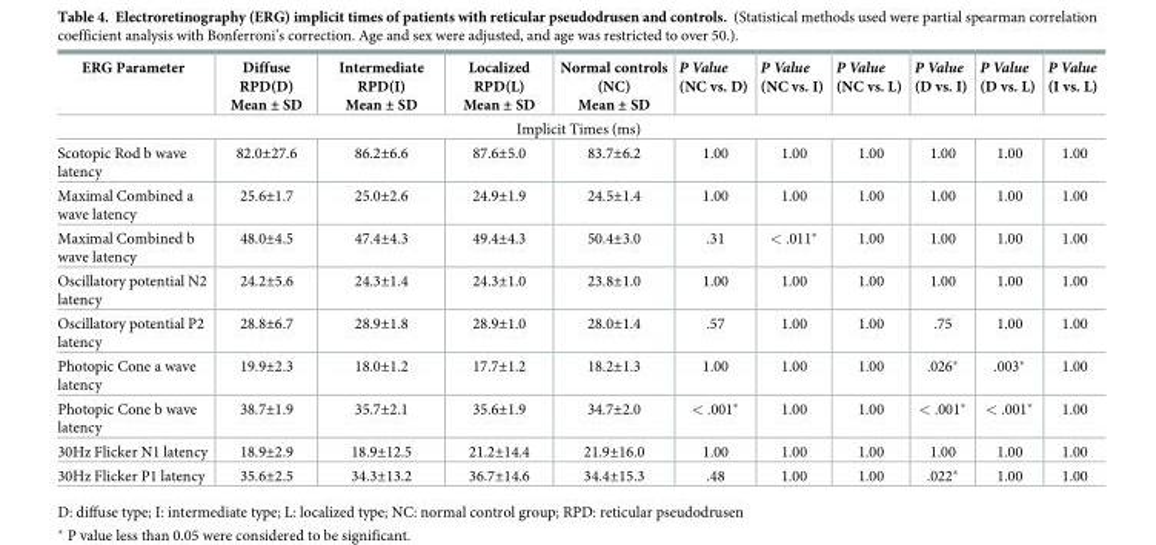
<table><thead><tr><td>ERG Parameter</td><td>Diffuse RPD(D) Mean ± SD</td><td>Intermediate RPD(I) Mean ± SD</td><td>Localized RPD(L) Mean ± SD</td><td>Normal controls (NC) Mean ± SD</td><td>P Value (NC vs. D)</td><td>P Value (NC vs. I)</td><td>P Value (NC vs. L)</td><td>P Value (D vs. I)</td><td>P Value (D vs. L)</td><td>P Value (I vs. L)</td></tr></thead><tbody><tr><td colspan="11">Implicit Times (ms)</td></tr><tr><td>Scotopic Rod b wave latency</td><td>82.0±27.6</td><td>86.2±6.6</td><td>87.6±5.0</td><td>83.7±6.2</td><td>1.00</td><td>1.00</td><td>1.00</td><td>1.00</td><td>1.00</td><td>1.00</td></tr><tr><td>Maximal Combined a wave latency</td><td>25.6±1.7</td><td>25.0±2.6</td><td>24.9±1.9</td><td>24.5±1.4</td><td>1.00</td><td>1.00</td><td>1.00</td><td>1.00</td><td>1.00</td><td>1.00</td></tr><tr><td>Maximal Combined b wave latency</td><td>48.0±4.5</td><td>47.4±4.3</td><td>49.4±4.3</td><td>50.4±3.0</td><td>.31</td><td>&lt; .011*</td><td>1.00</td><td>1.00</td><td>1.00</td><td>1.00</td></tr><tr><td>Oscillatory potential N2 latency</td><td>24.2±5.6</td><td>24.3±1.4</td><td>24.3±1.0</td><td>23.8±1.0</td><td>1.00</td><td>1.00</td><td>1.00</td><td>1.00</td><td>1.00</td><td>1.00</td></tr><tr><td>Oscillatory potential P2 latency</td><td>28.8±6.7</td><td>28.9±1.8</td><td>28.9±1.0</td><td>28.0±1.4</td><td>.57</td><td>1.00</td><td>1.00</td><td>.75</td><td>1.00</td><td>1.00</td></tr><tr><td>Photopic Cone a wave latency</td><td>19.9±2.3</td><td>18.0±1.2</td><td>17.7±1.2</td><td>18.2±1.3</td><td>1.00</td><td>1.00</td><td>1.00</td><td>.026*</td><td>.003*</td><td>1.00</td></tr><tr><td>Photopic Cone b wave latency</td><td>38.7±1.9</td><td>35.7±2.1</td><td>35.6±1.9</td><td>34.7±2.0</td><td>&lt; .001*</td><td>1.00</td><td>1.00</td><td>&lt; .001*</td><td>&lt; .001*</td><td>1.00</td></tr><tr><td>30Hz Flicker N1 latency</td><td>18.9±2.9</td><td>18.9±12.5</td><td>21.2±14.4</td><td>21.9±16.0</td><td>1.00</td><td>1.00</td><td>1.00</td><td>1.00</td><td>1.00</td><td>1.00</td></tr><tr><td>30Hz Flicker P1 latency</td><td>35.6±2.5</td><td>34.3±13.2</td><td>36.7±14.6</td><td>34.4±15.3</td><td>.48</td><td>1.00</td><td>1.00</td><td>.022*</td><td>1.00</td><td>1.00</td></tr></tbody></table>